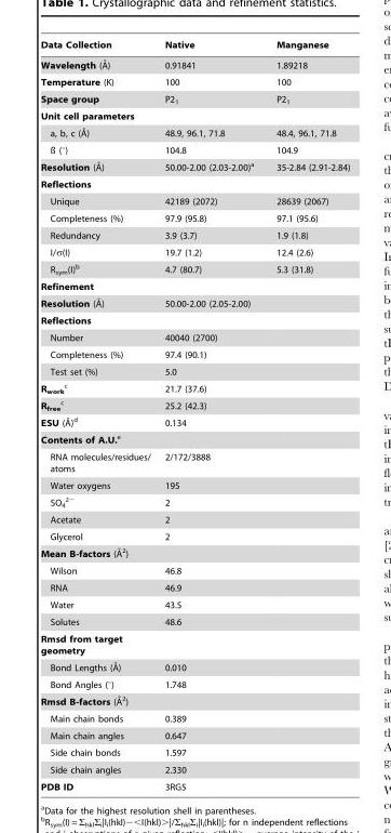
<table><thead><tr><td>Data Collection</td><td>Native</td><td>Manganese</td></tr></thead><tbody><tr><td>Wavelength (A˚)</td><td>0.91841</td><td>1.89218</td></tr><tr><td>Temperature (K)</td><td>100</td><td>100</td></tr><tr><td>Space group</td><td>P2<sub>1</sub></td><td>P2<sub>1</sub></td></tr><tr><td colspan="3">Unit cell parameters</td></tr><tr><td>a, b, c (A˚)</td><td>48.9, 96.1, 71.8</td><td>48.4, 96.1, 71.8</td></tr><tr><td>ß (°)</td><td>104.8</td><td>104.9</td></tr><tr><td>Resolution (A˚)</td><td>50.00-2.00 (2.03-2.00)<sup>a</sup></td><td>35-2.84 (2.91-2.84)</td></tr><tr><td colspan="3">Reflections</td></tr><tr><td>Unique</td><td>42189 (2072)</td><td>28639 (2067)</td></tr><tr><td>Completeness (%)</td><td>97.9 (95.8)</td><td>97.1 (95.6)</td></tr><tr><td>Redundancy</td><td>3.9 (3.7)</td><td>1.9 (1.8)</td></tr><tr><td>I/σ(I)</td><td>19.7 (1.2)</td><td>12.4 (2.6)</td></tr><tr><td>R<sub>sym</sub>(I)<sup>b</sup></td><td>4.7 (80.7)</td><td>5.3 (31.8)</td></tr><tr><td colspan="3">Refinement</td></tr><tr><td>Resolution (A˚)</td><td>50.00-2.00 (2.05-2.00)</td><td></td></tr><tr><td colspan="3">Reflections</td></tr><tr><td>Number</td><td>40040 (2700)</td><td></td></tr><tr><td>Completeness (%)</td><td>97.4 (90.1)</td><td></td></tr><tr><td>Test set (%)</td><td>5.0</td><td></td></tr><tr><td>R<sub>work</sub> c</td><td>21.7 (37.6)</td><td></td></tr><tr><td>R<sub>free</sub> c</td><td>25.2 (42.3)</td><td></td></tr><tr><td>ESU (A˚)d</td><td>0.134</td><td></td></tr><tr><td colspan="3">Contents of A.U.e</td></tr><tr><td>RNA molecules/residues/ atoms</td><td>2/172/3888</td><td></td></tr><tr><td>Water oxygens</td><td>195</td><td></td></tr><tr><td>SO<sub>4</sub> <sup>2−</sup></td><td>2</td><td></td></tr><tr><td>Acetate</td><td>2</td><td></td></tr><tr><td>Glycerol</td><td>2</td><td></td></tr><tr><td colspan="3">Mean B-factors (A˚2)</td></tr><tr><td>Wilson</td><td>46.8</td><td></td></tr><tr><td>RNA</td><td>46.9</td><td></td></tr><tr><td>Water</td><td>43.5</td><td></td></tr><tr><td>Solutes</td><td>48.6</td><td></td></tr><tr><td colspan="3">Rmsd from target geometry</td></tr><tr><td>Bond Lengths (A˚)</td><td>0.010</td><td></td></tr><tr><td>Bond Angles (°)</td><td>1.748</td><td></td></tr><tr><td colspan="3">Rmsd B-factors (A˚2)</td></tr><tr><td>Main chain bonds</td><td>0.389</td><td></td></tr><tr><td>Main chain angles</td><td>0.647</td><td></td></tr><tr><td>Side chain bonds</td><td>1.597</td><td></td></tr><tr><td>Side chain angles</td><td>2.330</td><td></td></tr><tr><td>PDB ID</td><td>3RG5</td><td></td></tr></tbody></table>